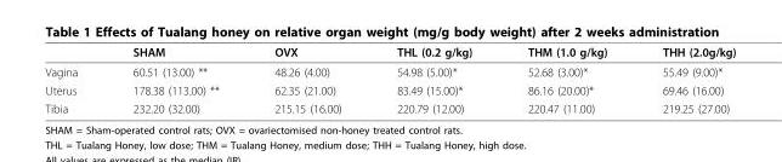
<table><thead><tr><td></td><td>SHAM</td><td>OVX</td><td>THL (0.2 g/kg)</td><td>THM (1.0 g/kg)</td><td>THH (2.0g/kg)</td></tr></thead><tbody><tr><td>Vagina</td><td>60.51 (13.00) **</td><td>48.26 (4.00)</td><td>54.98 (5.00)*</td><td>52.68 (3.00)*</td><td>55.49 (9.00)*</td></tr><tr><td>Uterus</td><td>178.38 (113.00) **</td><td>62.35 (21.00)</td><td>83.49 (15.00)*</td><td>86.16 (20.00)*</td><td>69.46 (16.00)</td></tr><tr><td>Tibia</td><td>232.20 (32.00)</td><td>215.15 (16.00)</td><td>220.79 (12.00)</td><td>220.47 (11.00)</td><td>219.25 (27.00)</td></tr></tbody></table>